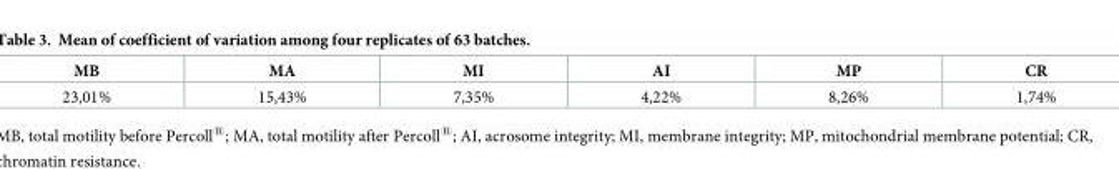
<table><thead><tr><td>MB</td><td>MA</td><td>MI</td><td>AI</td><td>MP</td><td>CR</td></tr></thead><tbody><tr><td>23,01%</td><td>15,43%</td><td>7,35%</td><td>4,22%</td><td>8,26%</td><td>1,74%</td></tr></tbody></table>